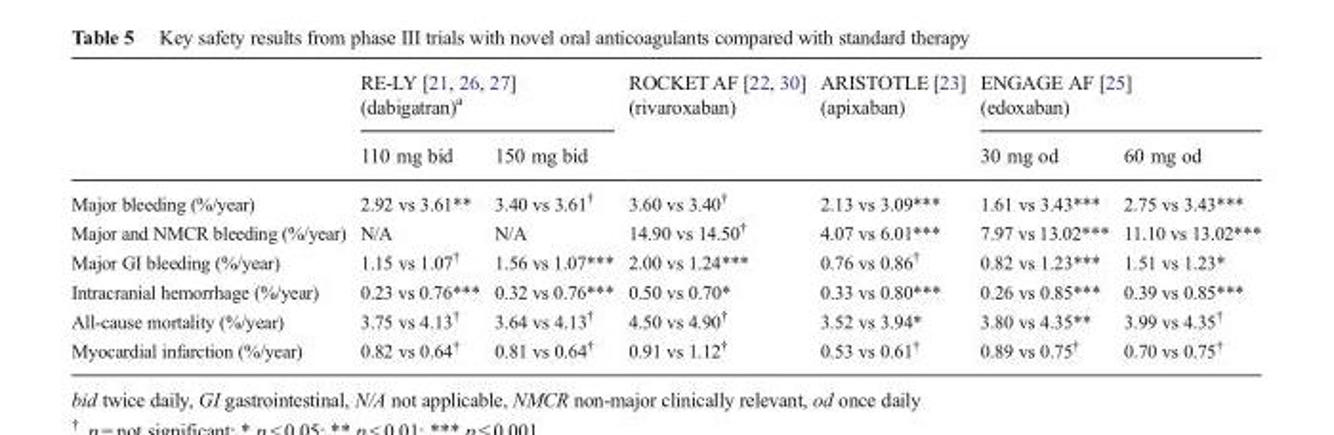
<table><thead><tr><td rowspan="2"></td><td colspan="2">RE-LY [21, 26, 27] (dabigatran)<sup>a</sup></td><td rowspan="2">ROCKET AF [22, 30] (rivaroxaban)</td><td rowspan="2">ARISTOTLE [23] (apixaban)</td><td colspan="2">ENGAGE AF [25] (edoxaban)</td></tr><tr><td>110 mg bid</td><td>150 mg bid</td><td>30 mg od</td><td>60 mg od</td></tr></thead><tbody><tr><td>Major bleeding (%/year)</td><td>2.92 vs 3.61**</td><td>3.40 vs 3.61<sup>†</sup></td><td>3.60 vs 3.40<sup>†</sup></td><td>2.13 vs 3.09***</td><td>1.61 vs 3.43***</td><td>2.75 vs 3.43***</td></tr><tr><td>Major and NMCR bleeding (%/year)</td><td>N/A</td><td>N/A</td><td>14.90 vs 14.50<sup>†</sup></td><td>4.07 vs 6.01***</td><td>7.97 vs 13.02***</td><td>11.10 vs 13.02***</td></tr><tr><td>Major GI bleeding (%/year)</td><td>1.15 vs 1.07<sup>†</sup></td><td>1.56 vs 1.07***</td><td>2.00 vs 1.24***</td><td>0.76 vs 0.86<sup>†</sup></td><td>0.82 vs 1.23***</td><td>1.51 vs 1.23*</td></tr><tr><td>Intracranial hemorrhage (%/year)</td><td>0.23 vs 0.76***</td><td>0.32 vs 0.76***</td><td>0.50 vs 0.70*</td><td>0.33 vs 0.80***</td><td>0.26 vs 0.85***</td><td>0.39 vs 0.85***</td></tr><tr><td>All-cause mortality (%/year)</td><td>3.75 vs 4.13<sup>†</sup></td><td>3.64 vs 4.13<sup>†</sup></td><td>4.50 vs 4.90<sup>†</sup></td><td>3.52 vs 3.94*</td><td>3.80 vs 4.35**</td><td>3.99 vs 4.35<sup>†</sup></td></tr><tr><td>Myocardial infarction (%/year)</td><td>0.82 vs 0.64<sup>†</sup></td><td>0.81 vs 0.64<sup>†</sup></td><td>0.91 vs 1.12<sup>†</sup></td><td>0.53 vs 0.61<sup>†</sup></td><td>0.89 vs 0.75<sup>†</sup></td><td>0.70 vs 0.75<sup>†</sup></td></tr></tbody></table>